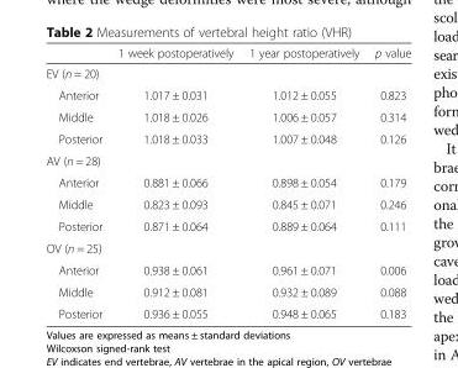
<table><thead><tr><td></td><td>1 week postoperatively</td><td>1 year postoperatively</td><td>p value</td></tr></thead><tbody><tr><td colspan="4">EV (n = 20)</td></tr><tr><td>Anterior</td><td>1.017 ± 0.031</td><td>1.012 ± 0.055</td><td>0.823</td></tr><tr><td>Middle</td><td>1.018 ± 0.026</td><td>1.006 ± 0.057</td><td>0.314</td></tr><tr><td>Posterior</td><td>1.018 ± 0.033</td><td>1.007 ± 0.048</td><td>0.126</td></tr><tr><td colspan="4">AV (n = 28)</td></tr><tr><td>Anterior</td><td>0.881 ± 0.066</td><td>0.898 ± 0.054</td><td>0.179</td></tr><tr><td>Middle</td><td>0.823 ± 0.093</td><td>0.845 ± 0.071</td><td>0.246</td></tr><tr><td>Posterior</td><td>0.871 ± 0.064</td><td>0.889 ± 0.064</td><td>0.111</td></tr><tr><td colspan="4">OV (n = 25)</td></tr><tr><td>Anterior</td><td>0.938 ± 0.061</td><td>0.961 ± 0.071</td><td>0.006</td></tr><tr><td>Middle</td><td>0.912 ± 0.081</td><td>0.932 ± 0.089</td><td>0.088</td></tr><tr><td>Posterior</td><td>0.936 ± 0.055</td><td>0.948 ± 0.065</td><td>0.183</td></tr></tbody></table>